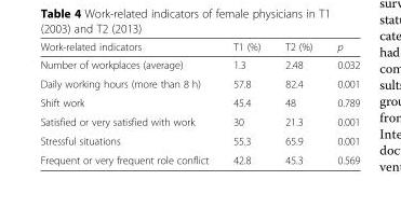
<table><thead><tr><td>Work-related indicators</td><td>T1 (%)</td><td>T2 (%)</td><td>p</td></tr></thead><tbody><tr><td>Number of workplaces (average)</td><td>1.3</td><td>2.48</td><td>0.032</td></tr><tr><td>Daily working hours (more than 8 h)</td><td>57.8</td><td>82.4</td><td>0.001</td></tr><tr><td>Shift work</td><td>45.4</td><td>48</td><td>0.789</td></tr><tr><td>Satisfied or very satisfied with work</td><td>30</td><td>21.3</td><td>0.001</td></tr><tr><td>Stressful situations</td><td>55.3</td><td>65.9</td><td>0.001</td></tr><tr><td>Frequent or very frequent role conflict</td><td>42.8</td><td>45.3</td><td>0.569</td></tr></tbody></table>